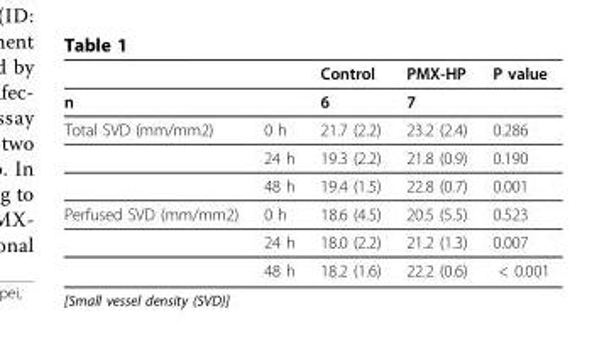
<table><thead><tr><td rowspan="2">n</td><td rowspan="2"></td><td rowspan="2">Control 6</td><td rowspan="2">PMX-HP 7</td><td rowspan="2">P value</td></tr><tr></tr></thead><tbody><tr><td rowspan="3">Total SVD (mm/mm2)</td><td>0 h</td><td>21.7 (2.2)</td><td>23.2 (2.4)</td><td>0.286</td></tr><tr><td>24 h</td><td>19.3 (2.2)</td><td>21.8 (0.9)</td><td>0.190</td></tr><tr><td>48 h</td><td>19.4 (1.5)</td><td>22.8 (0.7)</td><td>0.001</td></tr><tr><td rowspan="3">Perfused SVD (mm/mm2)</td><td>0 h</td><td>18.6 (4.5)</td><td>20.5 (5.5)</td><td>0.523</td></tr><tr><td>24 h</td><td>18.0 (2.2)</td><td>21.2 (1.3)</td><td>0.007</td></tr><tr><td>48 h</td><td>18.2 (1.6)</td><td>22.2 (0.6)</td><td>&lt; 0.001</td></tr></tbody></table>